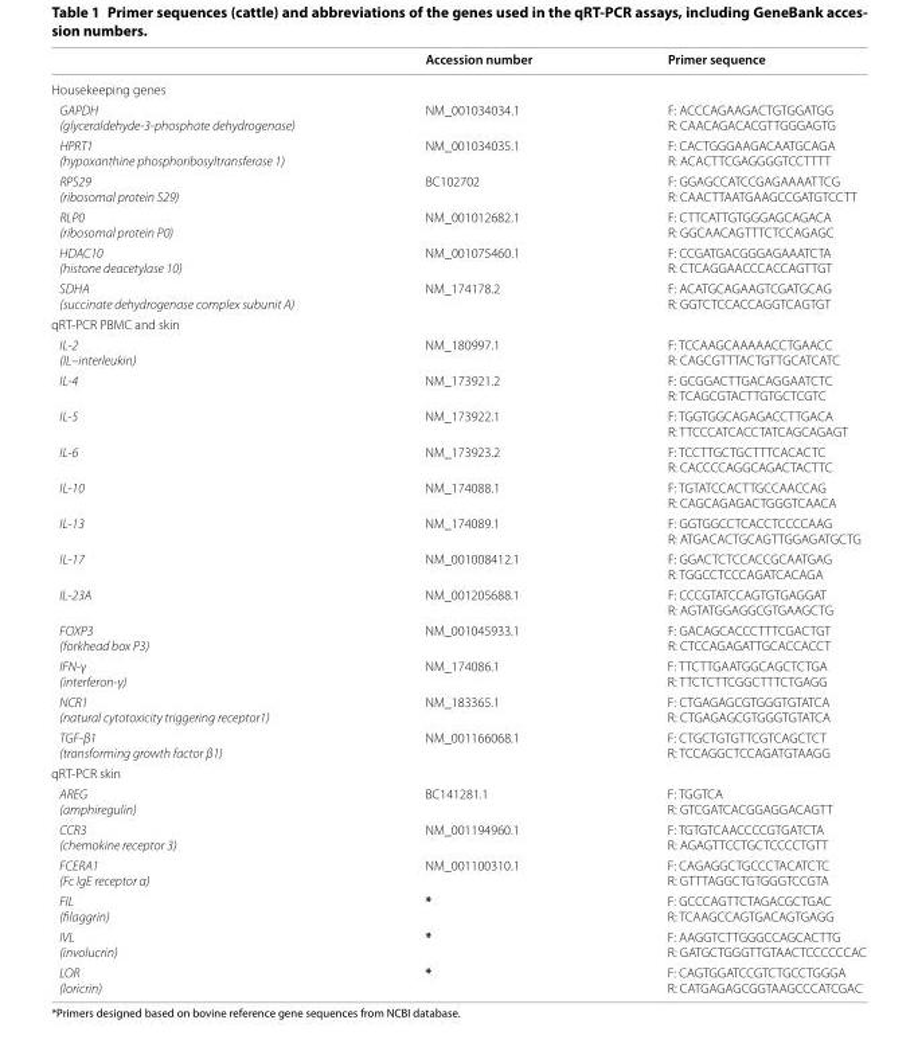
<table><thead><tr><td></td><td>Accession number</td><td>Primer sequence</td></tr></thead><tbody><tr><td colspan="3">Housekeeping genes</td></tr><tr><td>GAPDH (glyceraldehyde‑3‑phosphate dehydrogenase)</td><td>NM_001034034.1</td><td>F: ACCCAGAAGACTGTGGATGG R: CAACAGACACGTTGGGAGTG</td></tr><tr><td>HPRT1 (hypoxanthine phosphoribosyltransferase 1)</td><td>NM_001034035.1</td><td>F: CACTGGGAAGACAATGCAGA R: ACACTTCGAGGGGTCCTTTT</td></tr><tr><td>RPS29 (ribosomal protein S29)</td><td>BC102702</td><td>F: GGAGCCATCCGAGAAAATTCG R: CAACTTAATGAAGCCGATGTCCTT</td></tr><tr><td>RLP0 (ribosomal protein P0)</td><td>NM_001012682.1</td><td>F: CTTCATTGTGGGAGCAGACA R: GGCAACAGTTTCTCCAGAGC</td></tr><tr><td>HDAC10 (histone deacetylase 10)</td><td>NM_001075460.1</td><td>F: CCGATGACGGGAGAAATCTA R: CTCAGGAACCCACCAGTTGT</td></tr><tr><td>SDHA (succinate dehydrogenase complex subunit A)</td><td>NM_174178.2</td><td>F: ACATGCAGAAGTCGATGCAG R: GGTCTCCACCAGGTCAGTGT</td></tr><tr><td colspan="3">qRT‑PCR PBMC and skin</td></tr><tr><td>IL‑2 (IL–interleukin)</td><td>NM_180997.1</td><td>F: TCCAAGCAAAAACCTGAACC R: CAGCGTTTACTGTTGCATCATC</td></tr><tr><td>IL‑4</td><td>NM_173921.2</td><td>F: GCGGACTTGACAGGAATCTC R: TCAGCGTACTTGTGCTCGTC</td></tr><tr><td>IL‑5</td><td>NM_173922.1</td><td>F: TGGTGGCAGAGACCTTGACA R: TTCCCATCACCTATCAGCAGAGT</td></tr><tr><td>IL‑6</td><td>NM_173923.2</td><td>F: TCCTTGCTGCTTTCACACTC R: CACCCCAGGCAGACTACTTC</td></tr><tr><td>IL‑10</td><td>NM_174088.1</td><td>F: TGTATCCACTTGCCAACCAG R: CAGCAGAGACTGGGTCAACA</td></tr><tr><td>IL‑13</td><td>NM_174089.1</td><td>F: GGTGGCCTCACCTCCCCAAG R: ATGACACTGCAGTTGGAGATGCTG</td></tr><tr><td>IL‑17</td><td>NM_001008412.1</td><td>F: GGACTCTCCACCGCAATGAG R: TGGCCTCCCAGATCACAGA</td></tr><tr><td>IL‑23A</td><td>NM_001205688.1</td><td>F: CCCGTATCCAGTGTGAGGAT R: AGTATGGAGGCGTGAAGCTG</td></tr><tr><td>FOXP3 (forkhead box P3)</td><td>NM_001045933.1</td><td>F: GACAGCACCCTTTCGACTGT R: CTCCAGAGATTGCACCACCT</td></tr><tr><td>IFN‑γ (interferon‑γ)</td><td>NM_174086.1</td><td>F: TTCTTGAATGGCAGCTCTGA R: TTCTCTTCGGCTTTCTGAGG</td></tr><tr><td>NCR1 (natural cytotoxicity triggering receptor1)</td><td>NM_183365.1</td><td>F: CTGAGAGCGTGGGTGTATCA R: CTGAGAGCGTGGGTGTATCA</td></tr><tr><td>TGF‑β1 (transforming growth factor β1)</td><td>NM_001166068.1</td><td>F: CTGCTGTGTTCGTCAGCTCT R: TCCAGGCTCCAGATGTAAGG</td></tr><tr><td colspan="3">qRT‑PCR skin</td></tr><tr><td>AREG (amphiregulin)</td><td>BC141281.1</td><td>F: TGGTCA R: GTCGATCACGGAGGACAGTT</td></tr><tr><td>CCR3 (chemokine receptor 3)</td><td>NM_001194960.1</td><td>F: TGTGTCAACCCCGTGATCTA R: AGAGTTCCTGCTCCCCTGTT</td></tr><tr><td>FCERA1 (Fc IgE receptor α)</td><td>NM_001100310.1</td><td>F: CAGAGGCTGCCCTACATCTC R: GTTTAGGCTGTGGGTCCGTA</td></tr><tr><td>FIL (filaggrin)</td><td>*</td><td>F: GCCCAGTTCTAGACGCTGAC R: TCAAGCCAGTGACAGTGAGG</td></tr><tr><td>IVL (involucrin)</td><td>*</td><td>F: AAGGTCTTGGGCCAGCACTTG R: GATGCTGGGTTGTAACTCCCCCCAC</td></tr><tr><td>LOR (loricrin)</td><td>*</td><td>F: CAGTGGATCCGTCTGCCTGGGA R: CATGAGAGCGGTAAGCCCATCGAC</td></tr></tbody></table>